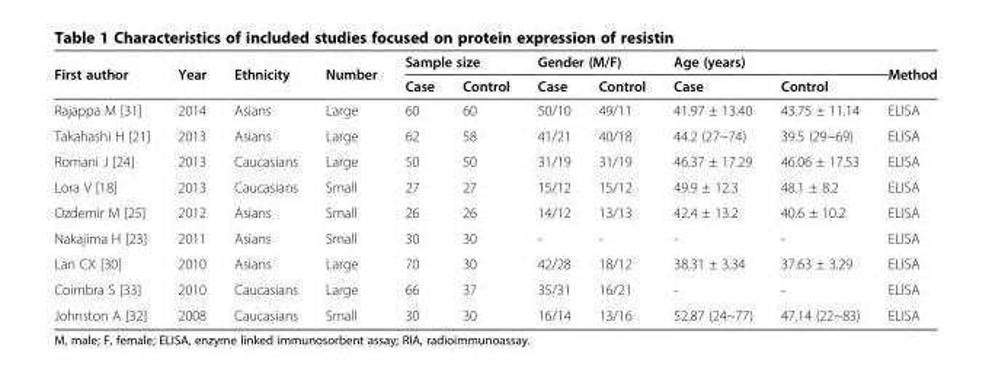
<table><thead><tr><td rowspan="2">First author</td><td rowspan="2">Year</td><td rowspan="2">Ethnicity</td><td rowspan="2">Number</td><td colspan="2">Sample size</td><td colspan="2">Gender (M/F)</td><td colspan="2">Age (years)</td><td rowspan="2">Method</td></tr><tr><td>Case</td><td>Control</td><td>Case</td><td>Control</td><td>Case</td><td>Control</td></tr></thead><tbody><tr><td>Rajappa M [31]</td><td>2014</td><td>Asians</td><td>Large</td><td>60</td><td>60</td><td>50/10</td><td>49/11</td><td>41.97 ± 13.40</td><td>43.75 ± 11.14</td><td>ELISA</td></tr><tr><td>Takahashi H [21]</td><td>2013</td><td>Asians</td><td>Large</td><td>62</td><td>58</td><td>41/21</td><td>40/18</td><td>44.2 (27~74)</td><td>39.5 (29~69)</td><td>ELISA</td></tr><tr><td>Romani J [24]</td><td>2013</td><td>Caucasians</td><td>Large</td><td>50</td><td>50</td><td>31/19</td><td>31/19</td><td>46.37 ± 17.29</td><td>46.06 ± 17.53</td><td>ELISA</td></tr><tr><td>Lora V [18]</td><td>2013</td><td>Caucasians</td><td>Small</td><td>27</td><td>27</td><td>15/12</td><td>15/12</td><td>49.9 ± 12.3</td><td>48.1 ± 8.2</td><td>ELISA</td></tr><tr><td>Ozdemir M [25]</td><td>2012</td><td>Asians</td><td>Small</td><td>26</td><td>26</td><td>14/12</td><td>13/13</td><td>42.4 ± 13.2</td><td>40.6 ± 10.2</td><td>ELISA</td></tr><tr><td>Nakajima H [23]</td><td>2011</td><td>Asians</td><td>Small</td><td>30</td><td>30</td><td>-</td><td>-</td><td>-</td><td>-</td><td>ELISA</td></tr><tr><td>Lan CX [30]</td><td>2010</td><td>Asians</td><td>Large</td><td>70</td><td>30</td><td>42/28</td><td>18/12</td><td>38.31 ± 3.34</td><td>37.63 ± 3.29</td><td>ELISA</td></tr><tr><td>Coimbra S [33]</td><td>2010</td><td>Caucasians</td><td>Large</td><td>66</td><td>37</td><td>35/31</td><td>16/21</td><td>-</td><td>-</td><td>ELISA</td></tr><tr><td>Johnston A [32]</td><td>2008</td><td>Caucasians</td><td>Small</td><td>30</td><td>30</td><td>16/14</td><td>13/16</td><td>52.87 (24~77)</td><td>47.14 (22~83)</td><td>ELISA</td></tr></tbody></table>